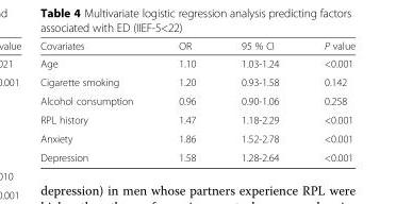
<table><thead><tr><td>Covariates</td><td>OR</td><td>95 % CI</td><td>P value</td></tr></thead><tbody><tr><td>Age</td><td>1.10</td><td>1.03-1.24</td><td>&lt;0.001</td></tr><tr><td>Cigarette smoking</td><td>1.20</td><td>0.93-1.58</td><td>0.142</td></tr><tr><td>Alcohol consumption</td><td>0.96</td><td>0.90-1.06</td><td>0.258</td></tr><tr><td>RPL history</td><td>1.47</td><td>1.18-2.29</td><td>&lt;0.001</td></tr><tr><td>Anxiety</td><td>1.86</td><td>1.52-2.78</td><td>&lt;0.001</td></tr><tr><td>Depression</td><td>1.58</td><td>1.28-2.64</td><td>&lt;0.001</td></tr></tbody></table>